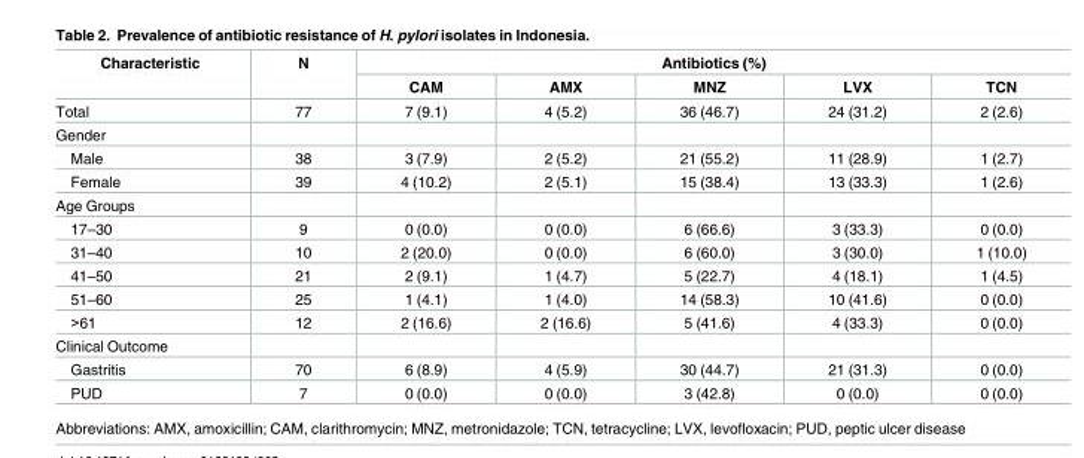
<table><thead><tr><td rowspan="2">Characteristic</td><td rowspan="2">N</td><td colspan="5">Antibiotics (%)</td></tr><tr><td>CAM</td><td>AMX</td><td>MNZ</td><td>LVX</td><td>TCN</td></tr></thead><tbody><tr><td>Total</td><td>77</td><td>7 (9.1)</td><td>4 (5.2)</td><td>36 (46.7)</td><td>24 (31.2)</td><td>2 (2.6)</td></tr><tr><td colspan="7">Gender</td></tr><tr><td>Male</td><td>38</td><td>3 (7.9)</td><td>2 (5.2)</td><td>21 (55.2)</td><td>11 (28.9)</td><td>1 (2.7)</td></tr><tr><td>Female</td><td>39</td><td>4 (10.2)</td><td>2 (5.1)</td><td>15 (38.4)</td><td>13 (33.3)</td><td>1 (2.6)</td></tr><tr><td colspan="7">Age Groups</td></tr><tr><td>17–30</td><td>9</td><td>0 (0.0)</td><td>0 (0.0)</td><td>6 (66.6)</td><td>3 (33.3)</td><td>0 (0.0)</td></tr><tr><td>31–40</td><td>10</td><td>2 (20.0)</td><td>0 (0.0)</td><td>6 (60.0)</td><td>3 (30.0)</td><td>1 (10.0)</td></tr><tr><td>41–50</td><td>21</td><td>2 (9.1)</td><td>1 (4.7)</td><td>5 (22.7)</td><td>4 (18.1)</td><td>1 (4.5)</td></tr><tr><td>51–60</td><td>25</td><td>1 (4.1)</td><td>1 (4.0)</td><td>14 (58.3)</td><td>10 (41.6)</td><td>0 (0.0)</td></tr><tr><td>&gt;61</td><td>12</td><td>2 (16.6)</td><td>2 (16.6)</td><td>5 (41.6)</td><td>4 (33.3)</td><td>0 (0.0)</td></tr><tr><td colspan="7">Clinical Outcome</td></tr><tr><td>Gastritis</td><td>70</td><td>6 (8.9)</td><td>4 (5.9)</td><td>30 (44.7)</td><td>21 (31.3)</td><td>0 (0.0)</td></tr><tr><td>PUD</td><td>7</td><td>0 (0.0)</td><td>0 (0.0)</td><td>3 (42.8)</td><td>0 (0.0)</td><td>0 (0.0)</td></tr></tbody></table>